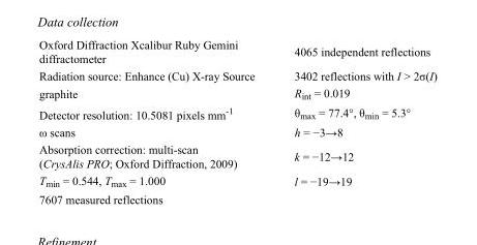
<table><tbody><tr><td>Oxford Diffraction Xcalibur Ruby Gemini diffractometer</td><td>4065 independent reflections</td></tr><tr><td>Radiation source: Enhance (Cu) X-ray Source</td><td>3402 reflections with I &gt; 2σ(I)</td></tr><tr><td>graphite</td><td>R<sub>int</sub> = 0.019</td></tr><tr><td>Detector resolution: 10.5081 pixels mm<sup>-1</sup></td><td>θ<sub>max</sub> = 77.4°, θ<sub>min</sub> = 5.3°</td></tr><tr><td>ω scans</td><td>h = −3→8</td></tr><tr><td>Absorption correction: multi-scan (CrysAlis PRO; Oxford Diffraction, 2009)</td><td>k = −12→12</td></tr><tr><td>T<sub>min</sub> = 0.544, T<sub>max</sub> = 1.000</td><td>l = −19→19</td></tr><tr><td>7607 measured reflections</td><td></td></tr></tbody></table>